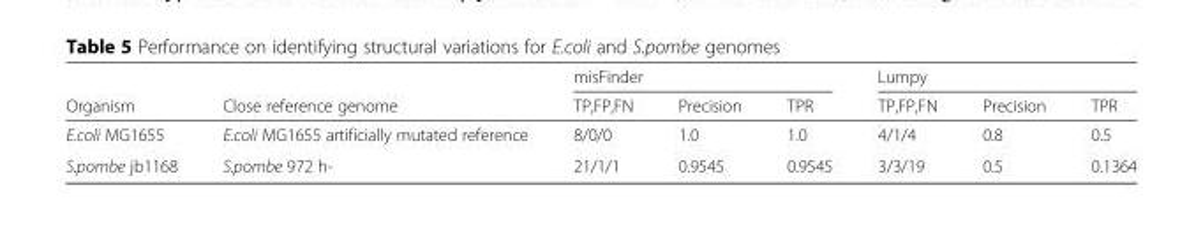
<table><thead><tr><td rowspan="2">Organism</td><td rowspan="2">Close reference genome</td><td colspan="3">misFinder</td><td colspan="3">Lumpy</td></tr><tr><td>TP,FP,FN</td><td>Precision</td><td>TPR</td><td>TP,FP,FN</td><td>Precision</td><td>TPR</td></tr></thead><tbody><tr><td>E.coli MG1655</td><td>E.coli MG1655 artificially mutated reference</td><td>8/0/0</td><td>1.0</td><td>1.0</td><td>4/1/4</td><td>0.8</td><td>0.5</td></tr><tr><td>S.pombe jb1168</td><td>S.pombe 972 h-</td><td>21/1/1</td><td>0.9545</td><td>0.9545</td><td>3/3/19</td><td>0.5</td><td>0.1364</td></tr></tbody></table>